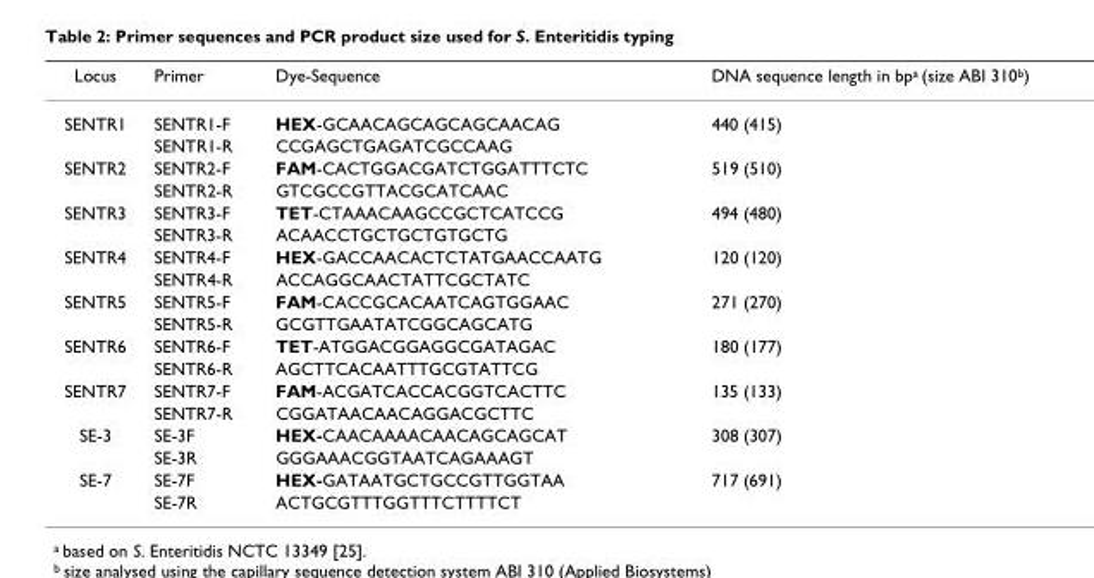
<table><thead><tr><td>Locus</td><td>Primer</td><td>Dye-Sequence</td><td>DNA sequence length in bp<sup>a</sup> (size ABI 310<sup>b</sup>)</td></tr></thead><tbody><tr><td rowspan="2">SENTR1</td><td>SENTR1-F</td><td>HEX-GCAACAGCAGCAGCAACAG</td><td>440 (415)</td></tr><tr><td>SENTR1-R</td><td>CCGAGCTGAGATCGCCAAG</td><td></td></tr><tr><td rowspan="2">SENTR2</td><td>SENTR2-F</td><td>FAM-CACTGGACGATCTGGATTTCTC</td><td>519 (510)</td></tr><tr><td>SENTR2-R</td><td>GTCGCCGTTACGCATCAAC</td><td></td></tr><tr><td rowspan="2">SENTR3</td><td>SENTR3-F</td><td>TET-CTAAACAAGCCGCTCATCCG</td><td>494 (480)</td></tr><tr><td>SENTR3-R</td><td>ACAACCTGCTGCTGTGCTG</td><td></td></tr><tr><td rowspan="2">SENTR4</td><td>SENTR4-F</td><td>HEX-GACCAACACTCTATGAACCAATG</td><td>120 (120)</td></tr><tr><td>SENTR4-R</td><td>ACCAGGCAACTATTCGCTATC</td><td></td></tr><tr><td rowspan="2">SENTR5</td><td>SENTR5-F</td><td>FAM-CACCGCACAATCAGTGGAAC</td><td>271 (270)</td></tr><tr><td>SENTR5-R</td><td>GCGTTGAATATCGGCAGCATG</td><td></td></tr><tr><td rowspan="2">SENTR6</td><td>SENTR6-F</td><td>TET-ATGGACGGAGGCGATAGAC</td><td>180 (177)</td></tr><tr><td>SENTR6-R</td><td>AGCTTCACAATTTGCGTATTCG</td><td></td></tr><tr><td rowspan="2">SENTR7</td><td>SENTR7-F</td><td>FAM-ACGATCACCACGGTCACTTC</td><td>135 (133)</td></tr><tr><td>SENTR7-R</td><td>CGGATAACAACAGGACGCTTC</td><td></td></tr><tr><td rowspan="2">SE-3</td><td>SE-3F</td><td>HEX-CAACAAAACAACAGCAGCAT</td><td>308 (307)</td></tr><tr><td>SE-3R</td><td>GGGAAACGGTAATCAGAAAGT</td><td></td></tr><tr><td rowspan="2">SE-7</td><td>SE-7F</td><td>HEX-GATAATGCTGCCGTTGGTAA</td><td>717 (691)</td></tr><tr><td>SE-7R</td><td>ACTGCGTTTGGTTTCTTTTCT</td><td></td></tr></tbody></table>